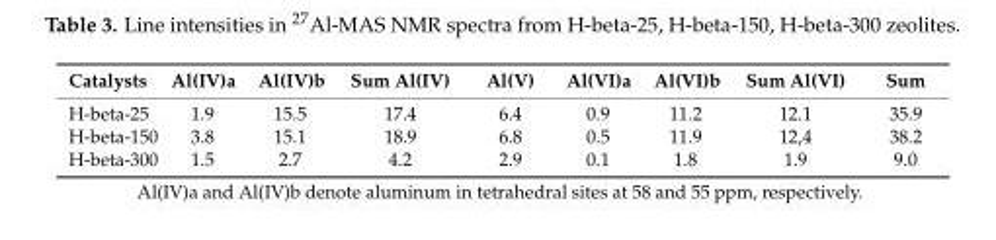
<table><thead><tr><td>Catalysts</td><td>Al(IV)a</td><td>Al(IV)b</td><td>Sum Al(IV)</td><td>Al(V)</td><td>Al(VI)a</td><td>Al(VI)b</td><td>Sum Al(VI)</td><td>Sum</td></tr></thead><tbody><tr><td>H-beta-25</td><td>1.9</td><td>15.5</td><td>17.4</td><td>6.4</td><td>0.9</td><td>11.2</td><td>12.1</td><td>35.9</td></tr><tr><td>H-beta-150</td><td>3.8</td><td>15.1</td><td>18.9</td><td>6.8</td><td>0.5</td><td>11.9</td><td>12,4</td><td>38.2</td></tr><tr><td>H-beta-300</td><td>1.5</td><td>2.7</td><td>4.2</td><td>2.9</td><td>0.1</td><td>1.8</td><td>1.9</td><td>9.0</td></tr></tbody></table>